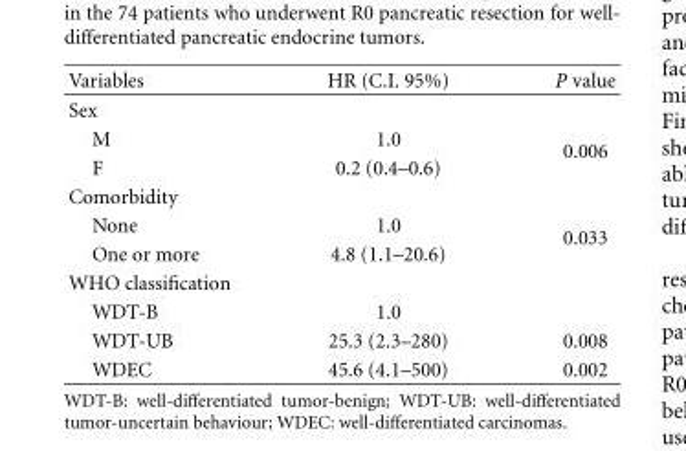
<table><thead><tr><td>Variables</td><td>HR (C.I. 95%)</td><td>P value</td></tr></thead><tbody><tr><td colspan="3">Sex</td></tr><tr><td>M</td><td>1.0</td><td rowspan="2">0.006</td></tr><tr><td>F</td><td>0.2 (0.4–0.6)</td></tr><tr><td colspan="3">Comorbidity</td></tr><tr><td>None</td><td>1.0</td><td rowspan="2">0.033</td></tr><tr><td>One or more</td><td>4.8 (1.1–20.6)</td></tr><tr><td colspan="3">WHO classification</td></tr><tr><td>WDT-B</td><td>1.0</td><td></td></tr><tr><td>WDT-UB</td><td>25.3 (2.3–280)</td><td>0.008</td></tr><tr><td>WDEC</td><td>45.6 (4.1–500)</td><td>0.002</td></tr></tbody></table>